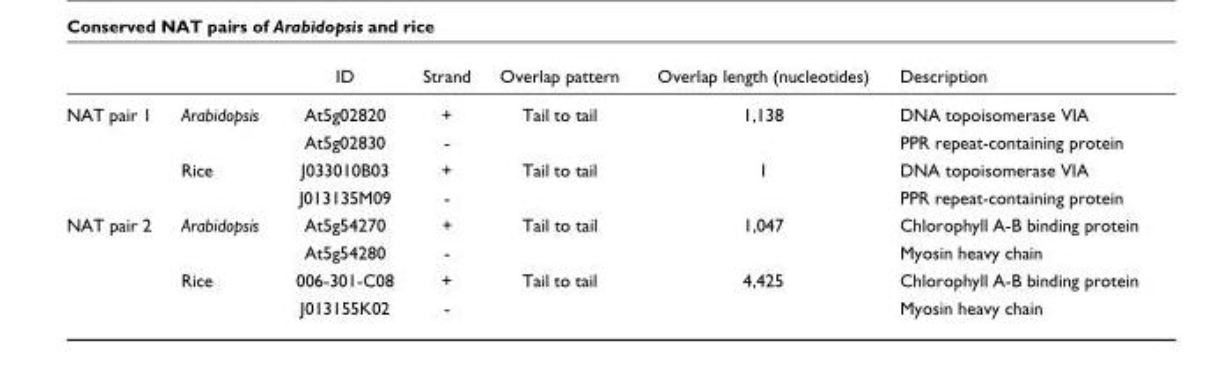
<table><thead><tr><td></td><td></td><td>ID</td><td>Strand</td><td>Overlap pattern</td><td>Overlap length (nucleotides)</td><td>Description</td></tr></thead><tbody><tr><td rowspan="4">NAT pair 1</td><td>Arabidopsis</td><td>At5g02820</td><td>+</td><td>Tail to tail</td><td>1,138</td><td>DNA topoisomerase VIA</td></tr><tr><td></td><td>At5g02830</td><td>-</td><td></td><td></td><td>PPR repeat-containing protein</td></tr><tr><td>Rice</td><td>J033010B03</td><td>+</td><td>Tail to tail</td><td>1</td><td>DNA topoisomerase VIA</td></tr><tr><td></td><td>J013135M09</td><td>-</td><td></td><td></td><td>PPR repeat-containing protein</td></tr><tr><td rowspan="4">NAT pair 2</td><td>Arabidopsis</td><td>At5g54270</td><td>+</td><td>Tail to tail</td><td>1,047</td><td>Chlorophyll A-B binding protein</td></tr><tr><td></td><td>At5g54280</td><td>-</td><td></td><td></td><td>Myosin heavy chain</td></tr><tr><td>Rice</td><td>006-301-C08</td><td>+</td><td>Tail to tail</td><td>4,425</td><td>Chlorophyll A-B binding protein</td></tr><tr><td></td><td>J013155K02</td><td>-</td><td></td><td></td><td>Myosin heavy chain</td></tr></tbody></table>